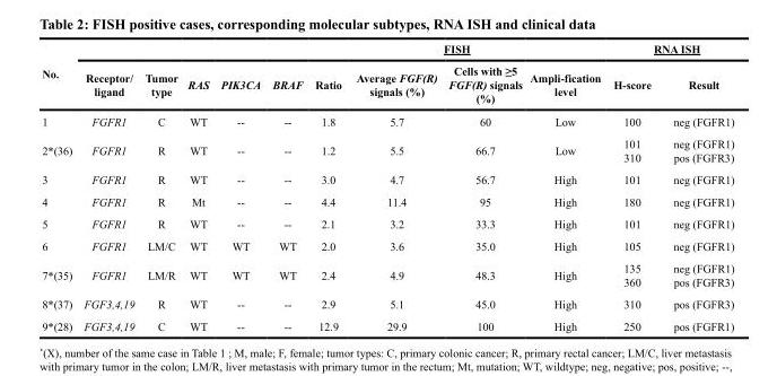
<table><thead><tr><td rowspan="2">No.</td><td rowspan="2">Receptor/ ligand</td><td rowspan="2">Tumor type</td><td rowspan="2">RAS</td><td rowspan="2">PIK3CA</td><td rowspan="2">BRAF</td><td colspan="4">FISH</td><td colspan="2">RNA ISH</td></tr><tr><td>Ratio</td><td>Average FGF(R) signals (%)</td><td>Cells with ≥5 FGF(R) signals (%)</td><td>Ampli-fication level</td><td>H-score</td><td>Result</td></tr></thead><tbody><tr><td>1</td><td>FGFR1</td><td>C</td><td>WT</td><td>--</td><td>--</td><td>1.8</td><td>5.7</td><td>60</td><td>Low</td><td>100</td><td>neg (FGFR1)</td></tr><tr><td>2*(36)</td><td>FGFR1</td><td>R</td><td>WT</td><td>--</td><td>--</td><td>1.2</td><td>5.5</td><td>66.7</td><td>Low</td><td>101 310</td><td>neg (FGFR1) pos (FGFR3)</td></tr><tr><td>3</td><td>FGFR1</td><td>R</td><td>WT</td><td>--</td><td>--</td><td>3.0</td><td>4.7</td><td>56.7</td><td>High</td><td>101</td><td>neg (FGFR1)</td></tr><tr><td>4</td><td>FGFR1</td><td>R</td><td>Mt</td><td>--</td><td>--</td><td>4.4</td><td>11.4</td><td>95</td><td>High</td><td>180</td><td>neg (FGFR1)</td></tr><tr><td>5</td><td>FGFR1</td><td>R</td><td>WT</td><td>--</td><td>--</td><td>2.1</td><td>3.2</td><td>33.3</td><td>High</td><td>101</td><td>neg (FGFR1)</td></tr><tr><td>6</td><td>FGFR1</td><td>LM/C</td><td>WT</td><td>WT</td><td>WT</td><td>2.0</td><td>3.6</td><td>35.0</td><td>High</td><td>105</td><td>neg (FGFR1)</td></tr><tr><td>7*(35)</td><td>FGFR1</td><td>LM/R</td><td>WT</td><td>WT</td><td>WT</td><td>2.4</td><td>4.9</td><td>48.3</td><td>High</td><td>135 360</td><td>neg (FGFR1) pos (FGFR3)</td></tr><tr><td>8*(37)</td><td>FGF3,4,19</td><td>R</td><td>WT</td><td>--</td><td>--</td><td>2.9</td><td>5.1</td><td>45.0</td><td>High</td><td>310</td><td>pos (FGFR3)</td></tr><tr><td>9*(28)</td><td>FGF3,4,19</td><td>C</td><td>WT</td><td>--</td><td>--</td><td>12.9</td><td>29.9</td><td>100</td><td>High</td><td>250</td><td>pos (FGFR1)</td></tr></tbody></table>